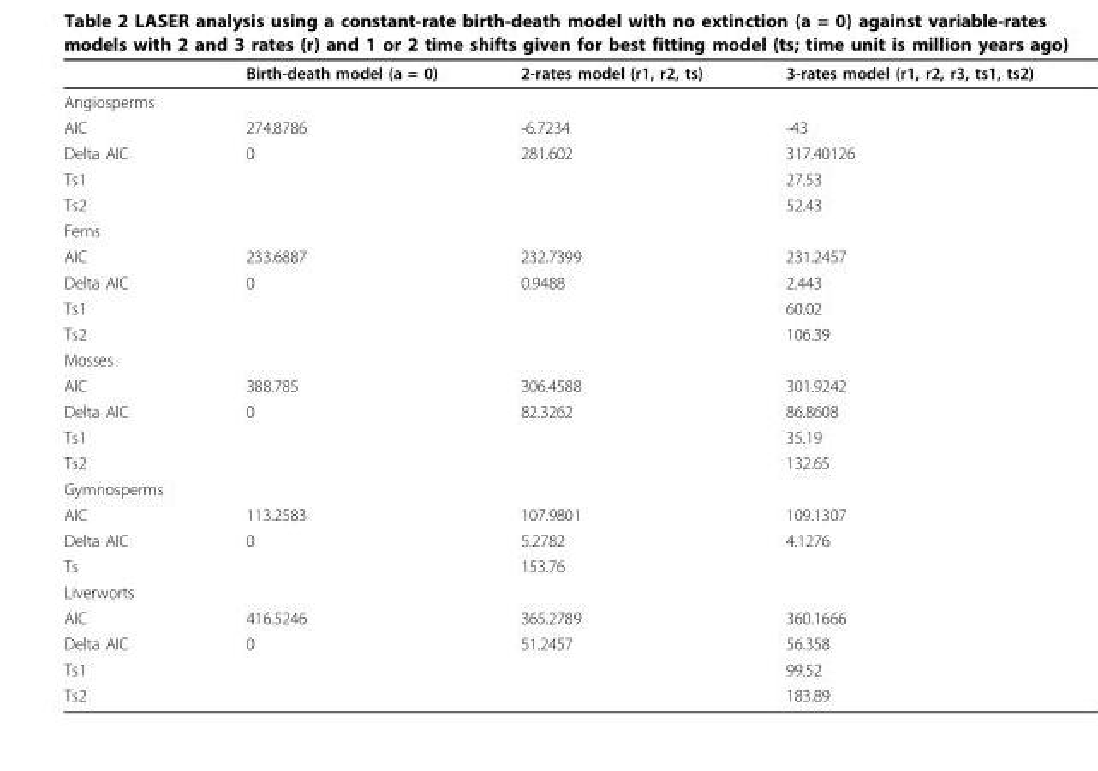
<table><thead><tr><td></td><td>Birth-death model (a = 0)</td><td>2-rates model (r1, r2, ts)</td><td>3-rates model (r1, r2, r3, ts1, ts2)</td></tr></thead><tbody><tr><td colspan="4">Angiosperms</td></tr><tr><td>AIC</td><td>274.8786</td><td>-6.7234</td><td>-43</td></tr><tr><td>Delta AIC</td><td>0</td><td>281.602</td><td>317.40126</td></tr><tr><td>Ts1</td><td></td><td></td><td>27.53</td></tr><tr><td>Ts2</td><td></td><td></td><td>52.43</td></tr><tr><td colspan="4">Ferns</td></tr><tr><td>AIC</td><td>233.6887</td><td>232.7399</td><td>231.2457</td></tr><tr><td>Delta AIC</td><td>0</td><td>0.9488</td><td>2.443</td></tr><tr><td>Ts1</td><td></td><td></td><td>60.02</td></tr><tr><td>Ts2</td><td></td><td></td><td>106.39</td></tr><tr><td colspan="4">Mosses</td></tr><tr><td>AIC</td><td>388.785</td><td>306.4588</td><td>301.9242</td></tr><tr><td>Delta AIC</td><td>0</td><td>82.3262</td><td>86.8608</td></tr><tr><td>Ts1</td><td></td><td></td><td>35.19</td></tr><tr><td>Ts2</td><td></td><td></td><td>132.65</td></tr><tr><td colspan="4">Gymnosperms</td></tr><tr><td>AIC</td><td>113.2583</td><td>107.9801</td><td>109.1307</td></tr><tr><td>Delta AIC</td><td>0</td><td>5.2782</td><td>4.1276</td></tr><tr><td>Ts</td><td></td><td>153.76</td><td></td></tr><tr><td colspan="4">Liverworts</td></tr><tr><td>AIC</td><td>416.5246</td><td>365.2789</td><td>360.1666</td></tr><tr><td>Delta AIC</td><td>0</td><td>51.2457</td><td>56.358</td></tr><tr><td>Ts1</td><td></td><td></td><td>99.52</td></tr><tr><td>Ts2</td><td></td><td></td><td>183.89</td></tr></tbody></table>